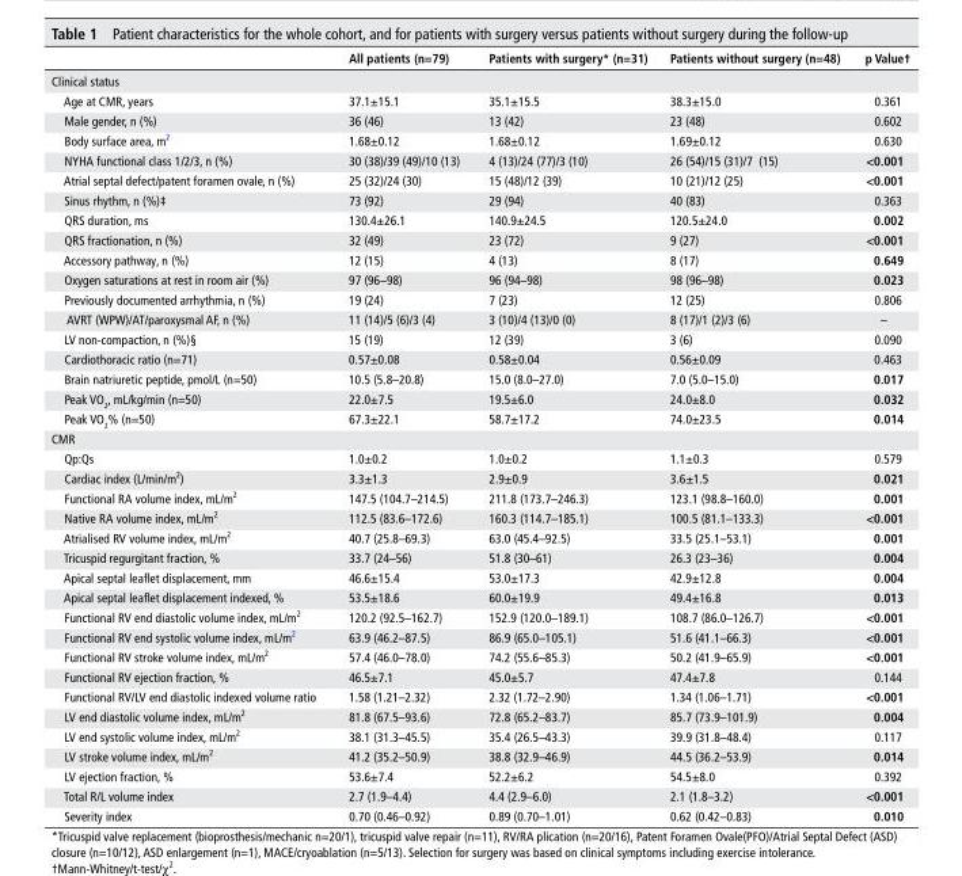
<table><thead><tr><td></td><td>All patients (n=79)</td><td>Patients with surgery* (n=31)</td><td>Patients without surgery (n=48)</td><td>p Value†</td></tr></thead><tbody><tr><td colspan="5">Clinical status</td></tr><tr><td>Age at CMR, years</td><td>37.1±15.1</td><td>35.1±15.5</td><td>38.3±15.0</td><td>0.361</td></tr><tr><td>Male gender, n (%)</td><td>36 (46)</td><td>13 (42)</td><td>23 (48)</td><td>0.602</td></tr><tr><td>Body surface area, m<sup>2</sup></td><td>1.68±0.12</td><td>1.68±0.12</td><td>1.69±0.12</td><td>0.630</td></tr><tr><td>NYHA functional class 1/2/3, n (%)</td><td>30 (38)/39 (49)/10 (13)</td><td>4 (13)/24 (77)/3 (10)</td><td>26 (54)/15 (31)/7 (15)</td><td>&lt;0.001</td></tr><tr><td>Atrial septal defect/patent foramen ovale, n (%)</td><td>25 (32)/24 (30)</td><td>15 (48)/12 (39)</td><td>10 (21)/12 (25)</td><td>&lt;0.001</td></tr><tr><td>Sinus rhythm, n (%)‡</td><td>73 (92)</td><td>29 (94)</td><td>40 (83)</td><td>0.363</td></tr><tr><td>QRS duration, ms</td><td>130.4±26.1</td><td>140.9±24.5</td><td>120.5±24.0</td><td>0.002</td></tr><tr><td>QRS fractionation, n (%)</td><td>32 (49)</td><td>23 (72)</td><td>9 (27)</td><td>&lt;0.001</td></tr><tr><td>Accessory pathway, n (%)</td><td>12 (15)</td><td>4 (13)</td><td>8 (17)</td><td>0.649</td></tr><tr><td>Oxygen saturations at rest in room air (%)</td><td>97 (96–98)</td><td>96 (94–98)</td><td>98 (96–98)</td><td>0.023</td></tr><tr><td>Previously documented arrhythmia, n (%)</td><td>19 (24)</td><td>7 (23)</td><td>12 (25)</td><td>0.806</td></tr><tr><td>AVRT (WPW)/AT/paroxysmal AF, n (%)</td><td>11 (14)/5 (6)/3 (4)</td><td>3 (10)/4 (13)/0 (0)</td><td>8 (17)/1 (2)/3 (6)</td><td>–</td></tr><tr><td>LV non-compaction, n (%)§</td><td>15 (19)</td><td>12 (39)</td><td>3 (6)</td><td>0.090</td></tr><tr><td>Cardiothoracic ratio (n=71)</td><td>0.57±0.08</td><td>0.58±0.04</td><td>0.56±0.09</td><td>0.463</td></tr><tr><td>Brain natriuretic peptide, pmol/L (n=50)</td><td>10.5 (5.8–20.8)</td><td>15.0 (8.0–27.0)</td><td>7.0 (5.0–15.0)</td><td>0.017</td></tr><tr><td>Peak VO<sub>2</sub>, mL/kg/min (n=50)</td><td>22.0±7.5</td><td>19.5±6.0</td><td>24.0±8.0</td><td>0.032</td></tr><tr><td>Peak VO<sub>2</sub>% (n=50)</td><td>67.3±22.1</td><td>58.7±17.2</td><td>74.0±23.5</td><td>0.014</td></tr><tr><td colspan="5">CMR</td></tr><tr><td>Qp:Qs</td><td>1.0±0.2</td><td>1.0±0.2</td><td>1.1±0.3</td><td>0.579</td></tr><tr><td>Cardiac index (L/min/m<sup>2</sup>)</td><td>3.3±1.3</td><td>2.9±0.9</td><td>3.6±1.5</td><td>0.021</td></tr><tr><td>Functional RA volume index, mL/m<sup>2</sup></td><td>147.5 (104.7–214.5)</td><td>211.8 (173.7–246.3)</td><td>123.1 (98.8–160.0)</td><td>0.001</td></tr><tr><td>Native RA volume index, mL/m<sup>2</sup></td><td>112.5 (83.6–172.6)</td><td>160.3 (114.7–185.1)</td><td>100.5 (81.1–133.3)</td><td>&lt;0.001</td></tr><tr><td>Atrialised RV volume index, mL/m<sup>2</sup></td><td>40.7 (25.8–69.3)</td><td>63.0 (45.4–92.5)</td><td>33.5 (25.1–53.1)</td><td>0.001</td></tr><tr><td>Tricuspid regurgitant fraction, %</td><td>33.7 (24–56)</td><td>51.8 (30–61)</td><td>26.3 (23–36)</td><td>0.004</td></tr><tr><td>Apical septal leaflet displacement, mm</td><td>46.6±15.4</td><td>53.0±17.3</td><td>42.9±12.8</td><td>0.004</td></tr><tr><td>Apical septal leaflet displacement indexed, %</td><td>53.5±18.6</td><td>60.0±19.9</td><td>49.4±16.8</td><td>0.013</td></tr><tr><td>Functional RV end diastolic volume index, mL/m<sup>2</sup></td><td>120.2 (92.5–162.7)</td><td>152.9 (120.0–189.1)</td><td>108.7 (86.0–126.7)</td><td>&lt;0.001</td></tr><tr><td>Functional RV end systolic volume index, mL/m<sup>2</sup></td><td>63.9 (46.2–87.5)</td><td>86.9 (65.0–105.1)</td><td>51.6 (41.1–66.3)</td><td>&lt;0.001</td></tr><tr><td>Functional RV stroke volume index, mL/m<sup>2</sup></td><td>57.4 (46.0–78.0)</td><td>74.2 (55.6–85.3)</td><td>50.2 (41.9–65.9)</td><td>&lt;0.001</td></tr><tr><td>Functional RV ejection fraction, %</td><td>46.5±7.1</td><td>45.0±5.7</td><td>47.4±7.8</td><td>0.144</td></tr><tr><td>Functional RV/LV end diastolic indexed volume ratio</td><td>1.58 (1.21–2.32)</td><td>2.32 (1.72–2.90)</td><td>1.34 (1.06–1.71)</td><td>&lt;0.001</td></tr><tr><td>LV end diastolic volume index, mL/m<sup>2</sup></td><td>81.8 (67.5–93.6)</td><td>72.8 (65.2–83.7)</td><td>85.7 (73.9–101.9)</td><td>0.004</td></tr><tr><td>LV end systolic volume index, mL/m<sup>2</sup></td><td>38.1 (31.3–45.5)</td><td>35.4 (26.5–43.3)</td><td>39.9 (31.8–48.4)</td><td>0.117</td></tr><tr><td>LV stroke volume index, mL/m<sup>2</sup></td><td>41.2 (35.2–50.9)</td><td>38.8 (32.9–46.9)</td><td>44.5 (36.2–53.9)</td><td>0.014</td></tr><tr><td>LV ejection fraction, %</td><td>53.6±7.4</td><td>52.2±6.2</td><td>54.5±8.0</td><td>0.392</td></tr><tr><td>Total R/L volume index</td><td>2.7 (1.9–4.4)</td><td>4.4 (2.9–6.0)</td><td>2.1 (1.8–3.2)</td><td>&lt;0.001</td></tr><tr><td>Severity index</td><td>0.70 (0.46–0.92)</td><td>0.89 (0.70–1.01)</td><td>0.62 (0.42–0.83)</td><td>0.010</td></tr></tbody></table>